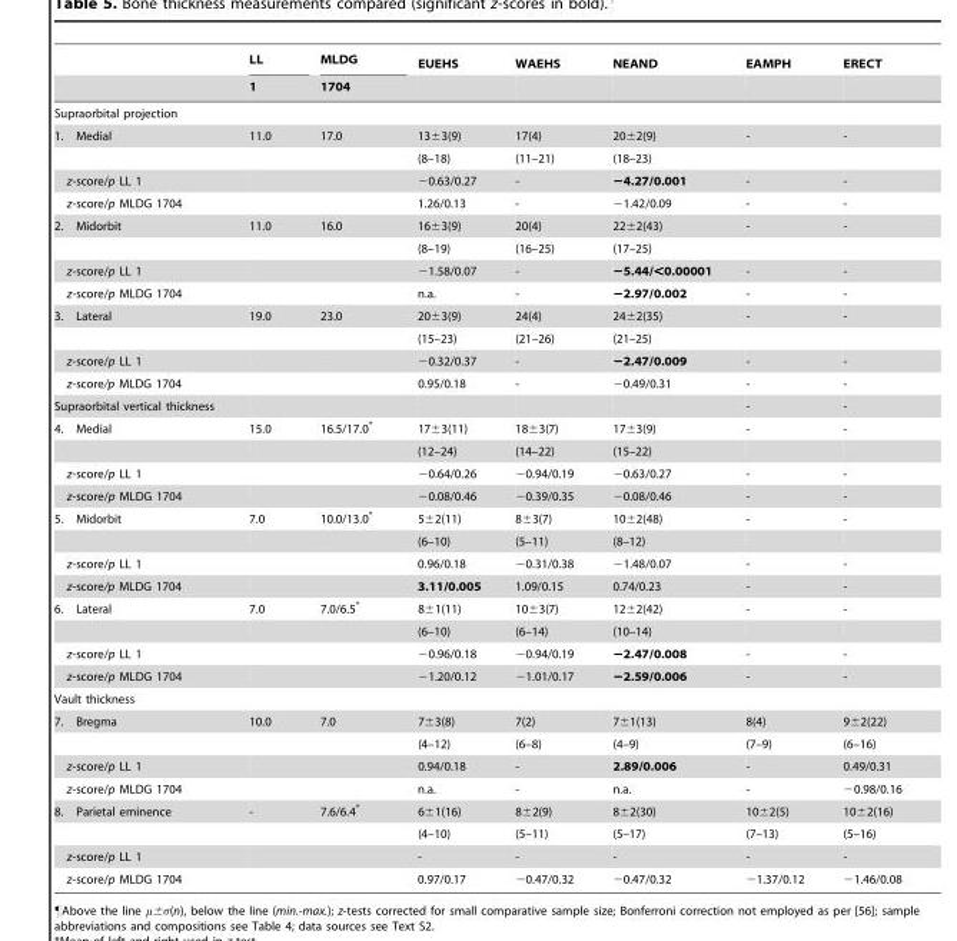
<table><thead><tr><td rowspan="2"></td><td rowspan="2">LL 1</td><td rowspan="2">MLDG 1704</td><td rowspan="2">EUEHS</td><td rowspan="2">WAEHS</td><td rowspan="2">NEAND</td><td rowspan="2">EAMPH</td><td rowspan="2">ERECT</td></tr><tr></tr></thead><tbody><tr><td colspan="8">Supraorbital projection</td></tr><tr><td rowspan="2">1. Medial</td><td>11.0</td><td>17.0</td><td>13±3(9)</td><td>17(4)</td><td>20±2(9)</td><td>-</td><td>-</td></tr><tr><td></td><td></td><td>(8–18)</td><td>(11–21)</td><td>(18–23)</td><td></td><td></td></tr><tr><td>z-score/p LL 1</td><td></td><td></td><td>−0.63/0.27</td><td>-</td><td>−4.27/0.001</td><td>-</td><td>-</td></tr><tr><td>z-score/p MLDG 1704</td><td></td><td></td><td>1.26/0.13</td><td>-</td><td>−1.42/0.09</td><td>-</td><td>-</td></tr><tr><td rowspan="2">2. Midorbit</td><td>11.0</td><td>16.0</td><td>16±3(9)</td><td>20(4)</td><td>22±2(43)</td><td>-</td><td>-</td></tr><tr><td></td><td></td><td>(8–19)</td><td>(16–25)</td><td>(17–25)</td><td></td><td></td></tr><tr><td>z-score/p LL 1</td><td></td><td></td><td>−1.58/0.07</td><td>-</td><td>−5.44/&lt;0.00001</td><td>-</td><td>-</td></tr><tr><td>z-score/p MLDG 1704</td><td></td><td></td><td>n.a.</td><td>-</td><td>−2.97/0.002</td><td>-</td><td>-</td></tr><tr><td rowspan="2">3. Lateral</td><td>19.0</td><td>23.0</td><td>20±3(9)</td><td>24(4)</td><td>24±2(35)</td><td>-</td><td>-</td></tr><tr><td></td><td></td><td>(15–23)</td><td>(21–26)</td><td>(21–25)</td><td></td><td></td></tr><tr><td>z-score/p LL 1</td><td></td><td></td><td>−0.32/0.37</td><td>-</td><td>−2.47/0.009</td><td>-</td><td>-</td></tr><tr><td>z-score/p MLDG 1704</td><td></td><td></td><td>0.95/0.18</td><td>-</td><td>−0.49/0.31</td><td>-</td><td>-</td></tr><tr><td>Supraorbital vertical thickness</td><td></td><td></td><td></td><td></td><td></td><td>-</td><td>-</td></tr><tr><td rowspan="2">4. Medial</td><td>15.0</td><td>16.5/17.0*</td><td>17±3(11)</td><td>18±3(7)</td><td>17±3(9)</td><td>-</td><td>-</td></tr><tr><td></td><td></td><td>(12–24)</td><td>(14–22)</td><td>(15–22)</td><td></td><td></td></tr><tr><td>z-score/p LL 1</td><td></td><td></td><td>−0.64/0.26</td><td>−0.94/0.19</td><td>−0.63/0.27</td><td>-</td><td>-</td></tr><tr><td>z-score/p MLDG 1704</td><td></td><td></td><td>−0.08/0.46</td><td>−0.39/0.35</td><td>−0.08/0.46</td><td>-</td><td>-</td></tr><tr><td rowspan="2">5. Midorbit</td><td>7.0</td><td>10.0/13.0*</td><td>5±2(11)</td><td>8±3(7)</td><td>10±2(48)</td><td>-</td><td>-</td></tr><tr><td></td><td></td><td>(6–10)</td><td>(5–11)</td><td>(8–12)</td><td></td><td></td></tr><tr><td>z-score/p LL 1</td><td></td><td></td><td>0.96/0.18</td><td>−0.31/0.38</td><td>−1.48/0.07</td><td>-</td><td>-</td></tr><tr><td>z-score/p MLDG 1704</td><td></td><td></td><td>3.11/0.005</td><td>1.09/0.15</td><td>0.74/0.23</td><td>-</td><td>-</td></tr><tr><td rowspan="2">6. Lateral</td><td>7.0</td><td>7.0/6.5*</td><td>8±1(11)</td><td>10±3(7)</td><td>12±2(42)</td><td>-</td><td>-</td></tr><tr><td></td><td></td><td>(6–10)</td><td>(6–14)</td><td>(10–14)</td><td></td><td></td></tr><tr><td>z-score/p LL 1</td><td></td><td></td><td>−0.96/0.18</td><td>−0.94/0.19</td><td>−2.47/0.008</td><td>-</td><td>-</td></tr><tr><td>z-score/p MLDG 1704</td><td></td><td></td><td>−1.20/0.12</td><td>−1.01/0.17</td><td>−2.59/0.006</td><td>-</td><td>-</td></tr><tr><td colspan="8">Vault thickness</td></tr><tr><td rowspan="2">7. Bregma</td><td>10.0</td><td>7.0</td><td>7±3(8)</td><td>7(2)</td><td>7±1(13)</td><td>8(4)</td><td>9±2(22)</td></tr><tr><td></td><td></td><td>(4–12)</td><td>(6–8)</td><td>(4–9)</td><td>(7–9)</td><td>(6–16)</td></tr><tr><td>z-score/p LL 1</td><td></td><td></td><td>0.94/0.18</td><td>-</td><td>2.89/0.006</td><td>-</td><td>0.49/0.31</td></tr><tr><td>z-score/p MLDG 1704</td><td></td><td></td><td>n.a.</td><td>-</td><td>n.a.</td><td>-</td><td>−0.98/0.16</td></tr><tr><td rowspan="2">8. Parietal eminence</td><td>-</td><td>7.6/6.4*</td><td>6±1(16)</td><td>8±2(9)</td><td>8±2(30)</td><td>10±2(5)</td><td>10±2(16)</td></tr><tr><td></td><td></td><td>(4–10)</td><td>(5–11)</td><td>(5–17)</td><td>(7–13)</td><td>(5–16)</td></tr><tr><td>z-score/p LL 1</td><td></td><td></td><td>-</td><td>-</td><td>-</td><td>-</td><td>-</td></tr><tr><td>z-score/p MLDG 1704</td><td></td><td></td><td>0.97/0.17</td><td>−0.47/0.32</td><td>−0.47/0.32</td><td>−1.37/0.12</td><td>−1.46/0.08</td></tr></tbody></table>